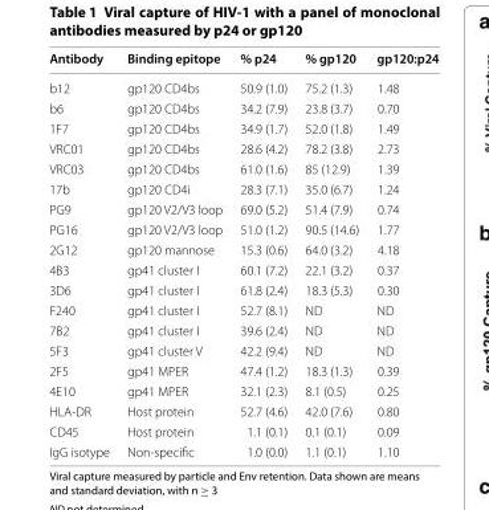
<table><thead><tr><td>Antibody</td><td>Binding epitope</td><td>% p24</td><td>% gp120</td><td>gp120:p24</td></tr></thead><tbody><tr><td>b12</td><td>gp120 CD4bs</td><td>50.9 (1.0)</td><td>75.2 (1.3)</td><td>1.48</td></tr><tr><td>b6</td><td>gp120 CD4bs</td><td>34.2 (7.9)</td><td>23.8 (3.7)</td><td>0.70</td></tr><tr><td>1F7</td><td>gp120 CD4bs</td><td>34.9 (1.7)</td><td>52.0 (1.8)</td><td>1.49</td></tr><tr><td>VRC01</td><td>gp120 CD4bs</td><td>28.6 (4.2)</td><td>78.2 (3.8)</td><td>2.73</td></tr><tr><td>VRC03</td><td>gp120 CD4bs</td><td>61.0 (1.6)</td><td>85 (12.9)</td><td>1.39</td></tr><tr><td>17b</td><td>gp120 CD4i</td><td>28.3 (7.1)</td><td>35.0 (6.7)</td><td>1.24</td></tr><tr><td>PG9</td><td>gp120 V2/V3 loop</td><td>69.0 (5.2)</td><td>51.4 (7.9)</td><td>0.74</td></tr><tr><td>PG16</td><td>gp120 V2/V3 loop</td><td>51.0 (1.2)</td><td>90.5 (14.6)</td><td>1.77</td></tr><tr><td>2G12</td><td>gp120 mannose</td><td>15.3 (0.6)</td><td>64.0 (3.2)</td><td>4.18</td></tr><tr><td>4B3</td><td>gp41 cluster I</td><td>60.1 (7.2)</td><td>22.1 (3.2)</td><td>0.37</td></tr><tr><td>3D6</td><td>gp41 cluster I</td><td>61.8 (2.4)</td><td>18.3 (5.3)</td><td>0.30</td></tr><tr><td>F240</td><td>gp41 cluster I</td><td>52.7 (8.1)</td><td>ND</td><td>ND</td></tr><tr><td>7B2</td><td>gp41 cluster I</td><td>39.6 (2.4)</td><td>ND</td><td>ND</td></tr><tr><td>5F3</td><td>gp41 cluster V</td><td>42.2 (9.4)</td><td>ND</td><td>ND</td></tr><tr><td>2F5</td><td>gp41 MPER</td><td>47.4 (1.2)</td><td>18.3 (1.3)</td><td>0.39</td></tr><tr><td>4E10</td><td>gp41 MPER</td><td>32.1 (2.3)</td><td>8.1 (0.5)</td><td>0.25</td></tr><tr><td>HLA-DR</td><td>Host protein</td><td>52.7 (4.6)</td><td>42.0 (7.6)</td><td>0.80</td></tr><tr><td>CD45</td><td>Host protein</td><td>1.1 (0.1)</td><td>0.1 (0.1)</td><td>0.09</td></tr><tr><td>IgG isotype</td><td>Non-specific</td><td>1.0 (0.0)</td><td>1.1 (0.1)</td><td>1.10</td></tr></tbody></table>